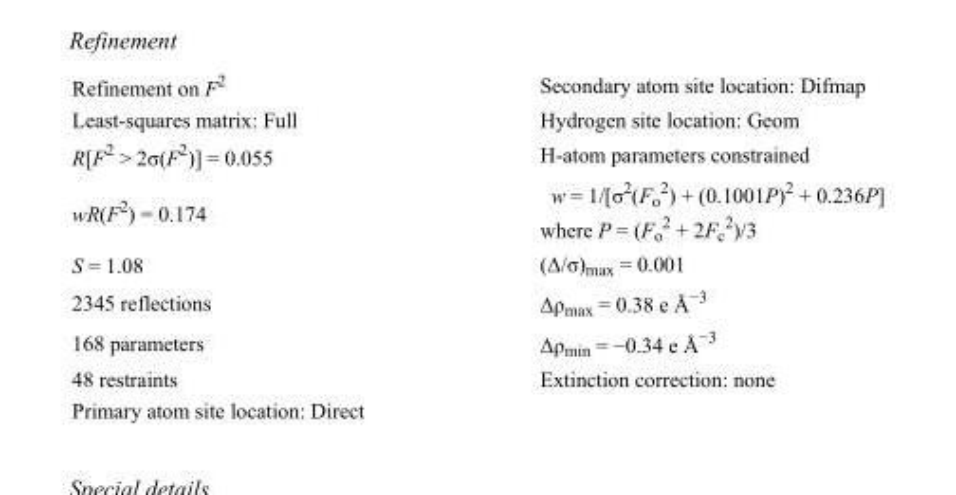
<table><tbody><tr><td>Refinement on F<sup>2</sup></td><td>Secondary atom site location: Difmap</td></tr><tr><td>Least-squares matrix: Full</td><td>Hydrogen site location: Geom</td></tr><tr><td>R[F<sup>2</sup> &gt; 2σ(F<sup>2</sup>)] = 0.055</td><td>H-atom parameters constrained</td></tr><tr><td>wR(F<sup>2</sup>) = 0.174</td><td>w = 1/[σ<sup>2</sup>(F<sub>o</sub> <sup>2</sup>) + (0.1001P)<sup>2</sup> + 0.236P] where P = (F<sub>o</sub> <sup>2</sup> + 2F<sub>c</sub> <sup>2</sup>)/3</td></tr><tr><td>S = 1.08</td><td>(Δ/σ)<sub>max</sub> = 0.001</td></tr><tr><td>2345 reflections</td><td>Δρ<sub>max</sub> = 0.38 e Å<sup>−3</sup></td></tr><tr><td>168 parameters</td><td>Δρ<sub>min</sub> = −0.34 e Å<sup>−3</sup></td></tr><tr><td>48 restraints</td><td>Extinction correction: none</td></tr><tr><td>Primary atom site location: Direct</td><td></td></tr></tbody></table>